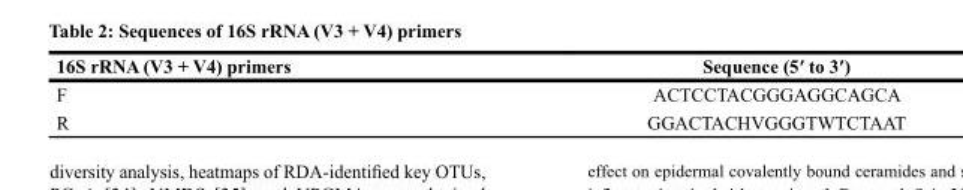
<table><thead><tr><td>16S rRNA (V3 + V4) primers</td><td>Sequence (5′ to 3′)</td></tr></thead><tbody><tr><td>F</td><td>ACTCCTACGGGAGGCAGCA</td></tr><tr><td>R</td><td>GGACTACHVGGGTWTCTAAT</td></tr></tbody></table>